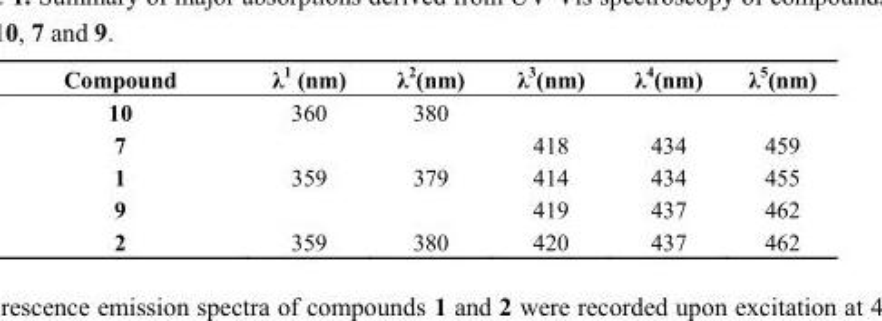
<table><thead><tr><td>Compound</td><td>λ<sup>1</sup> (nm)</td><td>λ<sup>2</sup>(nm)</td><td>λ<sup>3</sup>(nm)</td><td>λ<sup>4</sup>(nm)</td><td>λ<sup>5</sup>(nm)</td></tr></thead><tbody><tr><td>10</td><td>360</td><td>380</td><td></td><td></td><td></td></tr><tr><td>7</td><td></td><td></td><td>418</td><td>434</td><td>459</td></tr><tr><td>1</td><td>359</td><td>379</td><td>414</td><td>434</td><td>455</td></tr><tr><td>9</td><td></td><td></td><td>419</td><td>437</td><td>462</td></tr><tr><td>2</td><td>359</td><td>380</td><td>420</td><td>437</td><td>462</td></tr></tbody></table>